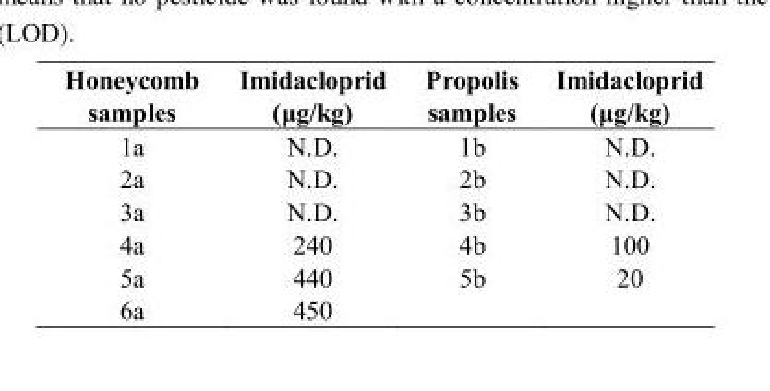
<table><thead><tr><td>Honeycomb samples</td><td>Imidacloprid (μg/kg)</td><td>Propolis samples</td><td>Imidacloprid (μg/kg)</td></tr></thead><tbody><tr><td>1a</td><td>N.D.</td><td>1b</td><td>N.D.</td></tr><tr><td>2a</td><td>N.D.</td><td>2b</td><td>N.D.</td></tr><tr><td>3a</td><td>N.D.</td><td>3b</td><td>N.D.</td></tr><tr><td>4a</td><td>240</td><td>4b</td><td>100</td></tr><tr><td>5a</td><td>440</td><td>5b</td><td>20</td></tr><tr><td>6a</td><td>450</td><td></td><td></td></tr></tbody></table>